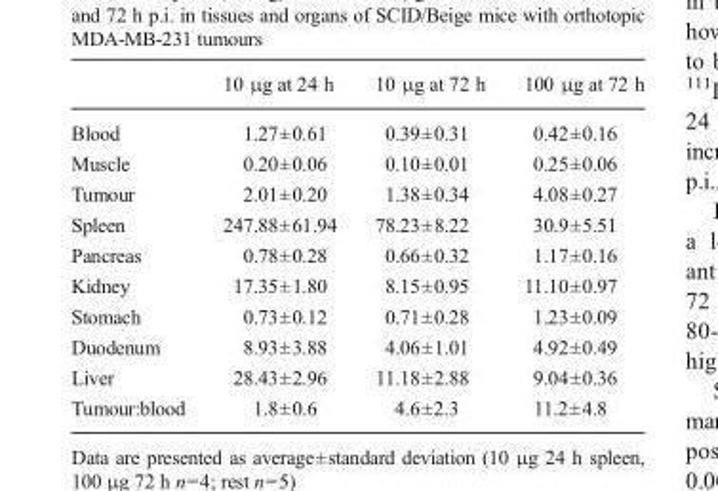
<table><thead><tr><td></td><td>10 μg at 24 h</td><td>10 μg at 72 h</td><td>100 μg at 72 h</td></tr></thead><tbody><tr><td>Blood</td><td>1.27±0.61</td><td>0.39±0.31</td><td>0.42±0.16</td></tr><tr><td>Muscle</td><td>0.20±0.06</td><td>0.10±0.01</td><td>0.25±0.06</td></tr><tr><td>Tumour</td><td>2.01±0.20</td><td>1.38±0.34</td><td>4.08±0.27</td></tr><tr><td>Spleen</td><td>247.88±61.94</td><td>78.23±8.22</td><td>30.9±5.51</td></tr><tr><td>Pancreas</td><td>0.78±0.28</td><td>0.66±0.32</td><td>1.17±0.16</td></tr><tr><td>Kidney</td><td>17.35±1.80</td><td>8.15±0.95</td><td>11.10±0.97</td></tr><tr><td>Stomach</td><td>0.73±0.12</td><td>0.71±0.28</td><td>1.23±0.09</td></tr><tr><td>Duodenum</td><td>8.93±3.88</td><td>4.06±1.01</td><td>4.92±0.49</td></tr><tr><td>Liver</td><td>28.43±2.96</td><td>11.18±2.88</td><td>9.04±0.36</td></tr><tr><td>Tumour:blood</td><td>1.8±0.6</td><td>4.6±2.3</td><td>11.2±4.8</td></tr></tbody></table>